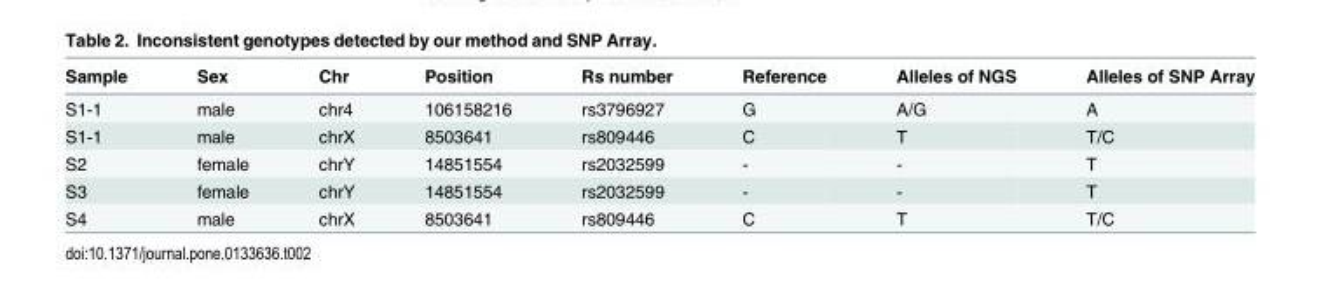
<table><thead><tr><td>Sample</td><td>Sex</td><td>Chr</td><td>Position</td><td>Rs number</td><td>Reference</td><td>Alleles of NGS</td><td>Alleles of SNP Array</td></tr></thead><tbody><tr><td>S1-1</td><td>male</td><td>chr4</td><td>106158216</td><td>rs3796927</td><td>G</td><td>A/G</td><td>A</td></tr><tr><td>S1-1</td><td>male</td><td>chrX</td><td>8503641</td><td>rs809446</td><td>C</td><td>T</td><td>T/C</td></tr><tr><td>S2</td><td>female</td><td>chrY</td><td>14851554</td><td>rs2032599</td><td>-</td><td>-</td><td>T</td></tr><tr><td>S3</td><td>female</td><td>chrY</td><td>14851554</td><td>rs2032599</td><td>-</td><td>-</td><td>T</td></tr><tr><td>S4</td><td>male</td><td>chrX</td><td>8503641</td><td>rs809446</td><td>C</td><td>T</td><td>T/C</td></tr></tbody></table>